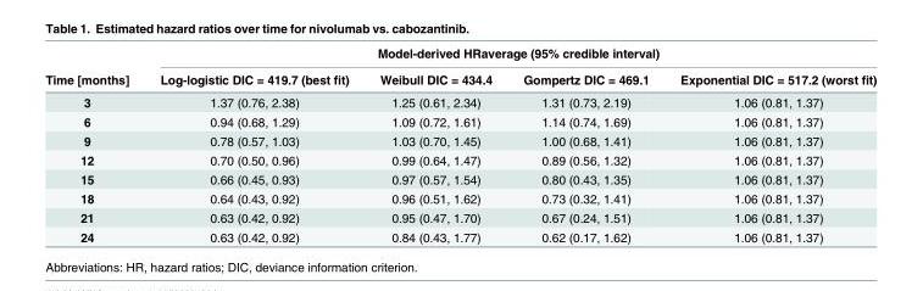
<table><thead><tr><td rowspan="2">Time [months]</td><td colspan="4">Model-derived HRaverage (95% credible interval)</td></tr><tr><td>Log-logistic DIC = 419.7 (best fit)</td><td>Weibull DIC = 434.4</td><td>Gompertz DIC = 469.1</td><td>Exponential DIC = 517.2 (worst fit)</td></tr></thead><tbody><tr><td>3</td><td>1.37 (0.76, 2.38)</td><td>1.25 (0.61, 2.34)</td><td>1.31 (0.73, 2.19)</td><td>1.06 (0.81, 1.37)</td></tr><tr><td>6</td><td>0.94 (0.68, 1.29)</td><td>1.09 (0.72, 1.61)</td><td>1.14 (0.74, 1.69)</td><td>1.06 (0.81, 1.37)</td></tr><tr><td>9</td><td>0.78 (0.57, 1.03)</td><td>1.03 (0.70, 1.45)</td><td>1.00 (0.68, 1.41)</td><td>1.06 (0.81, 1.37)</td></tr><tr><td>12</td><td>0.70 (0.50, 0.96)</td><td>0.99 (0.64, 1.47)</td><td>0.89 (0.56, 1.32)</td><td>1.06 (0.81, 1.37)</td></tr><tr><td>15</td><td>0.66 (0.45, 0.93)</td><td>0.97 (0.57, 1.54)</td><td>0.80 (0.43, 1.35)</td><td>1.06 (0.81, 1.37)</td></tr><tr><td>18</td><td>0.64 (0.43, 0.92)</td><td>0.96 (0.51, 1.62)</td><td>0.73 (0.32, 1.41)</td><td>1.06 (0.81, 1.37)</td></tr><tr><td>21</td><td>0.63 (0.42, 0.92)</td><td>0.95 (0.47, 1.70)</td><td>0.67 (0.24, 1.51)</td><td>1.06 (0.81, 1.37)</td></tr><tr><td>24</td><td>0.63 (0.42, 0.92)</td><td>0.84 (0.43, 1.77)</td><td>0.62 (0.17, 1.62)</td><td>1.06 (0.81, 1.37)</td></tr></tbody></table>